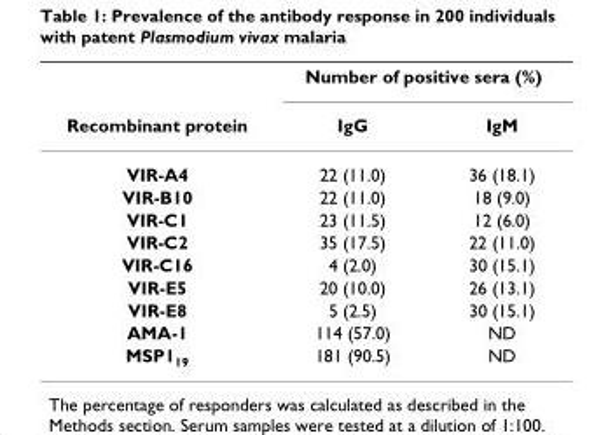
<table><thead><tr><td rowspan="2">Recombinant protein</td><td colspan="2">Number of positive sera (%)</td></tr><tr><td>IgG</td><td>IgM</td></tr></thead><tbody><tr><td>VIR-A4</td><td>22 (11.0)</td><td>36 (18.1)</td></tr><tr><td>VIR-B10</td><td>22 (11.0)</td><td>18 (9.0)</td></tr><tr><td>VIR-C1</td><td>23 (11.5)</td><td>12 (6.0)</td></tr><tr><td>VIR-C2</td><td>35 (17.5)</td><td>22 (11.0)</td></tr><tr><td>VIR-C16</td><td>4 (2.0)</td><td>30 (15.1)</td></tr><tr><td>VIR-E5</td><td>20 (10.0)</td><td>26 (13.1)</td></tr><tr><td>VIR-E8</td><td>5 (2.5)</td><td>30 (15.1)</td></tr><tr><td>AMA-1</td><td>114 (57.0)</td><td>ND</td></tr><tr><td>MSP1<sub>19</sub></td><td>181 (90.5)</td><td>ND</td></tr></tbody></table>